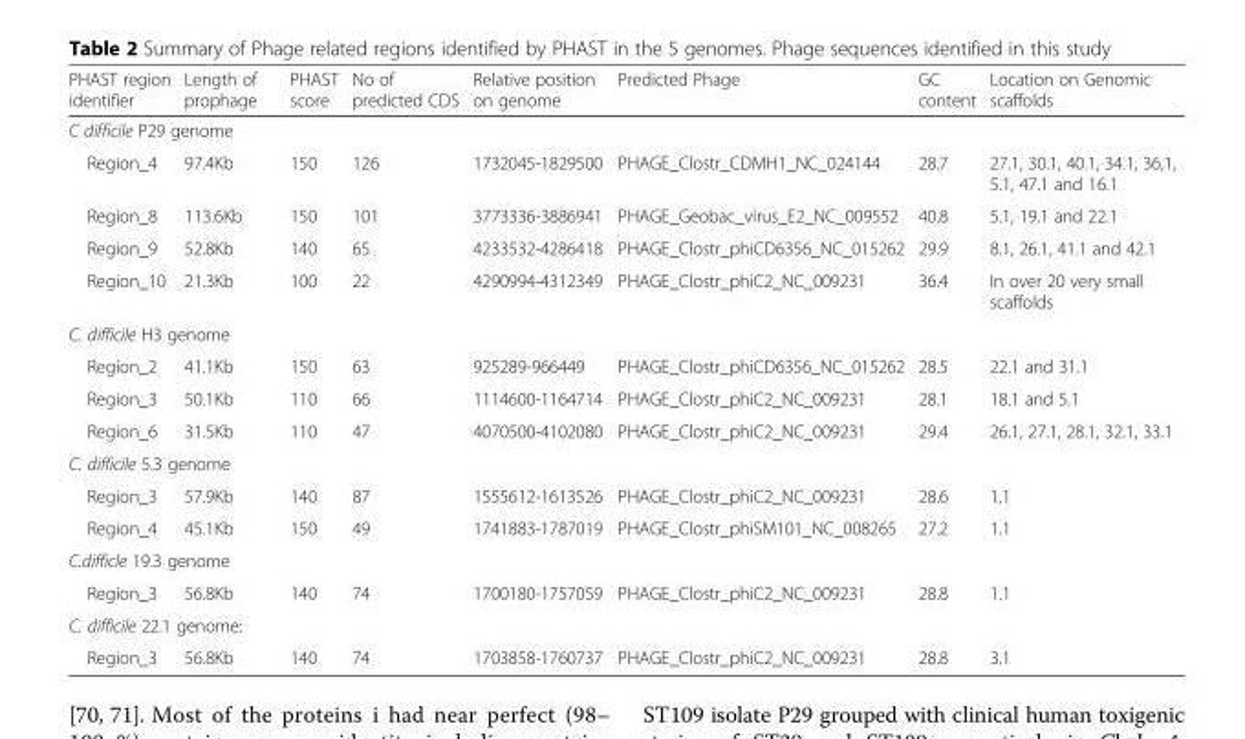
<table><thead><tr><td>PHAST region identifier</td><td>Length of prophage</td><td>PHAST score</td><td>No of predicted CDS</td><td>Relative position on genome</td><td>Predicted Phage</td><td>GC content</td><td>Location on Genomic scaffolds</td></tr></thead><tbody><tr><td colspan="8">C difficile P29 genome</td></tr><tr><td>Region_4</td><td>97.4Kb</td><td>150</td><td>126</td><td>1732045-1829500</td><td>PHAGE_Clostr_CDMH1_NC_024144</td><td>28.7</td><td>27.1, 30.1, 40.1, 34.1, 36,1, 5.1, 47.1 and 16.1</td></tr><tr><td>Region_8</td><td>113.6Kb</td><td>150</td><td>101</td><td>3773336-3886941</td><td>PHAGE_Geobac_virus_E2_NC_009552</td><td>40.8</td><td>5.1, 19.1 and 22.1</td></tr><tr><td>Region_9</td><td>52.8Kb</td><td>140</td><td>65</td><td>4233532-4286418</td><td>PHAGE_Clostr_phiCD6356_NC_015262</td><td>29.9</td><td>8.1, 26.1, 41.1 and 42.1</td></tr><tr><td>Region_10</td><td>21.3Kb</td><td>100</td><td>22</td><td>4290994-4312349</td><td>PHAGE_Clostr_phiC2_NC_009231</td><td>36.4</td><td>In over 20 very small scaffolds</td></tr><tr><td colspan="8">C. difficile H3 genome</td></tr><tr><td>Region_2</td><td>41.1Kb</td><td>150</td><td>63</td><td>925289-966449</td><td>PHAGE_Clostr_phiCD6356_NC_015262</td><td>28.5</td><td>22.1 and 31.1</td></tr><tr><td>Region_3</td><td>50.1Kb</td><td>110</td><td>66</td><td>1114600-1164714</td><td>PHAGE_Clostr_phiC2_NC_009231</td><td>28.1</td><td>18.1 and 5.1</td></tr><tr><td>Region_6</td><td>31.5Kb</td><td>110</td><td>47</td><td>4070500-4102080</td><td>PHAGE_Clostr_phiC2_NC_009231</td><td>29.4</td><td>26.1, 27.1, 28.1, 32.1, 33.1</td></tr><tr><td colspan="8">C. difficile 5.3 genome</td></tr><tr><td>Region_3</td><td>57.9Kb</td><td>140</td><td>87</td><td>1555612-1613526</td><td>PHAGE_Clostr_phiC2_NC_009231</td><td>28.6</td><td>1.1</td></tr><tr><td>Region_4</td><td>45.1Kb</td><td>150</td><td>49</td><td>1741883-1787019</td><td>PHAGE_Clostr_phiSM101_NC_008265</td><td>27.2</td><td>1.1</td></tr><tr><td colspan="8">C.difficle 19.3 genome</td></tr><tr><td>Region_3</td><td>56.8Kb</td><td>140</td><td>74</td><td>1700180-1757059</td><td>PHAGE_Clostr_phiC2_NC_009231</td><td>28.8</td><td>1.1</td></tr><tr><td colspan="8">C. difficile 22.1 genome:</td></tr><tr><td>Region_3</td><td>56.8Kb</td><td>140</td><td>74</td><td>1703858-1760737</td><td>PHAGE_Clostr_phiC2_NC_009231</td><td>28.8</td><td>3.1</td></tr></tbody></table>